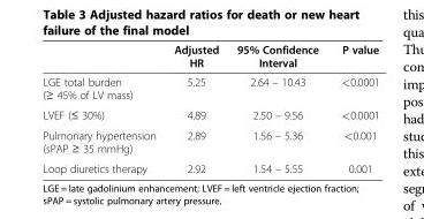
<table><thead><tr><td></td><td>Adjusted HR</td><td>95% Confidence Interval</td><td>P value</td></tr></thead><tbody><tr><td>LGE total burden (≥ 45% of LV mass)</td><td>5.25</td><td>2.64 – 10.43</td><td>&lt;0.0001</td></tr><tr><td>LVEF (≤ 30%)</td><td>4.89</td><td>2.50 – 9.56</td><td>&lt;0.0001</td></tr><tr><td>Pulmonary hypertension (sPAP ≥ 35 mmHg)</td><td>2.89</td><td>1.56 – 5.36</td><td>&lt;0.001</td></tr><tr><td>Loop diuretics therapy</td><td>2.92</td><td>1.54 – 5.55</td><td>0.001</td></tr></tbody></table>